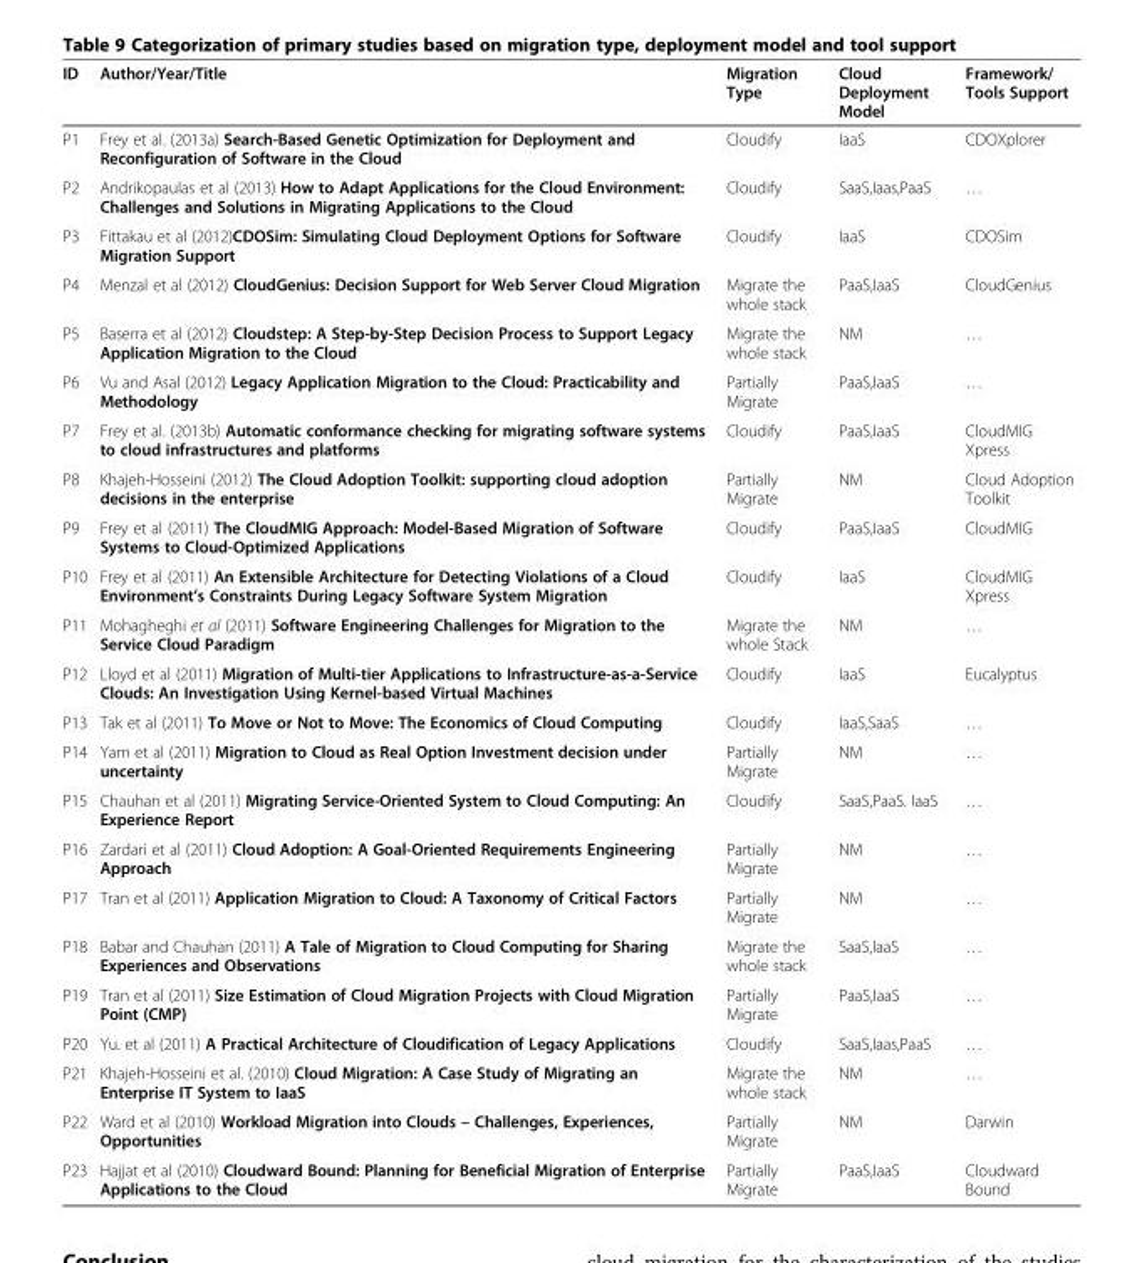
<table><thead><tr><td>ID</td><td>Author/Year/Title</td><td>Migration Type</td><td>Cloud Deployment Model</td><td>Framework/ Tools Support</td></tr></thead><tbody><tr><td>P1</td><td>Frey et al. (2013a) Search-Based Genetic Optimization for Deployment and Reconfiguration of Software in the Cloud</td><td>Cloudify</td><td>IaaS</td><td>CDOXplorer</td></tr><tr><td>P2</td><td>Andrikopaulas et al (2013) How to Adapt Applications for the Cloud Environment: Challenges and Solutions in Migrating Applications to the Cloud</td><td>Cloudify</td><td>SaaS,Iaas,PaaS</td><td>…</td></tr><tr><td>P3</td><td>Fittakau et al (2012)CDOSim: Simulating Cloud Deployment Options for Software Migration Support</td><td>Cloudify</td><td>IaaS</td><td>CDOSim</td></tr><tr><td>P4</td><td>Menzal et al (2012) CloudGenius: Decision Support for Web Server Cloud Migration</td><td>Migrate the whole stack</td><td>PaaS,IaaS</td><td>CloudGenius</td></tr><tr><td>P5</td><td>Baserra et al (2012) Cloudstep: A Step-by-Step Decision Process to Support Legacy Application Migration to the Cloud</td><td>Migrate the whole stack</td><td>NM</td><td>…</td></tr><tr><td>P6</td><td>Vu and Asal (2012) Legacy Application Migration to the Cloud: Practicability and Methodology</td><td>Partially Migrate</td><td>PaaS,IaaS</td><td>…</td></tr><tr><td>P7</td><td>Frey et al. (2013b) Automatic conformance checking for migrating software systems to cloud infrastructures and platforms</td><td>Cloudify</td><td>PaaS,IaaS</td><td>CloudMIG Xpress</td></tr><tr><td>P8</td><td>Khajeh-Hosseini (2012) The Cloud Adoption Toolkit: supporting cloud adoption decisions in the enterprise</td><td>Partially Migrate</td><td>NM</td><td>Cloud Adoption Toolkit</td></tr><tr><td>P9</td><td>Frey et al (2011) The CloudMIG Approach: Model-Based Migration of Software Systems to Cloud-Optimized Applications</td><td>Cloudify</td><td>PaaS,IaaS</td><td>CloudMIG</td></tr><tr><td>P10</td><td>Frey et al (2011) An Extensible Architecture for Detecting Violations of a Cloud Environment’s Constraints During Legacy Software System Migration</td><td>Cloudify</td><td>IaaS</td><td>CloudMIG Xpress</td></tr><tr><td>P11</td><td>Mohagheghi et al (2011) Software Engineering Challenges for Migration to the Service Cloud Paradigm</td><td>Migrate the whole Stack</td><td>NM</td><td>…</td></tr><tr><td>P12</td><td>Lloyd et al (2011) Migration of Multi-tier Applications to Infrastructure-as-a-Service Clouds: An Investigation Using Kernel-based Virtual Machines</td><td>Cloudify</td><td>IaaS</td><td>Eucalyptus</td></tr><tr><td>P13</td><td>Tak et al (2011) To Move or Not to Move: The Economics of Cloud Computing</td><td>Cloudify</td><td>IaaS,SaaS</td><td>…</td></tr><tr><td>P14</td><td>Yam et al (2011) Migration to Cloud as Real Option Investment decision under uncertainty</td><td>Partially Migrate</td><td>NM</td><td>…</td></tr><tr><td>P15</td><td>Chauhan et al (2011) Migrating Service-Oriented System to Cloud Computing: An Experience Report</td><td>Cloudify</td><td>SaaS,PaaS. IaaS</td><td>…</td></tr><tr><td>P16</td><td>Zardari et al (2011) Cloud Adoption: A Goal-Oriented Requirements Engineering Approach</td><td>Partially Migrate</td><td>NM</td><td>…</td></tr><tr><td>P17</td><td>Tran et al (2011) Application Migration to Cloud: A Taxonomy of Critical Factors</td><td>Partially Migrate</td><td>NM</td><td>…</td></tr><tr><td>P18</td><td>Babar and Chauhan (2011) A Tale of Migration to Cloud Computing for Sharing Experiences and Observations</td><td>Migrate the whole stack</td><td>SaaS,IaaS</td><td>…</td></tr><tr><td>P19</td><td>Tran et al (2011) Size Estimation of Cloud Migration Projects with Cloud Migration Point (CMP)</td><td>Partially Migrate</td><td>PaaS,IaaS</td><td>…</td></tr><tr><td>P20</td><td>Yu. et al (2011) A Practical Architecture of Cloudification of Legacy Applications</td><td>Cloudify</td><td>SaaS,Iaas,PaaS</td><td>…</td></tr><tr><td>P21</td><td>Khajeh-Hosseini et al. (2010) Cloud Migration: A Case Study of Migrating an Enterprise IT System to IaaS</td><td>Migrate the whole stack</td><td>NM</td><td>…</td></tr><tr><td>P22</td><td>Ward et al (2010) Workload Migration into Clouds – Challenges, Experiences, Opportunities</td><td>Partially Migrate</td><td>NM</td><td>Darwin</td></tr><tr><td>P23</td><td>Hajjat et al (2010) Cloudward Bound: Planning for Beneficial Migration of Enterprise Applications to the Cloud</td><td>Partially Migrate</td><td>PaaS,IaaS</td><td>Cloudward Bound</td></tr></tbody></table>